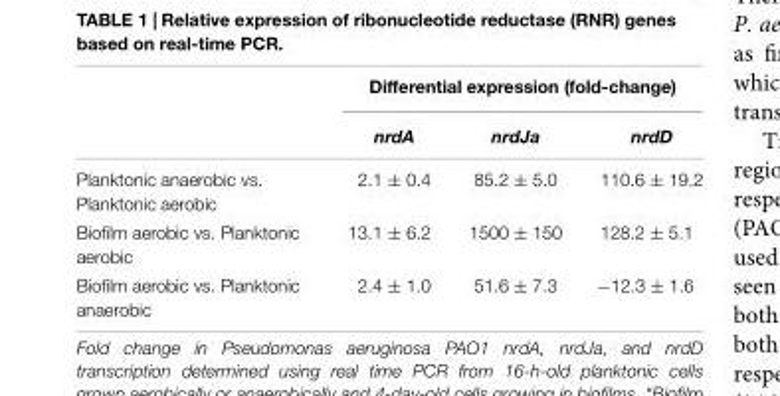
<table><thead><tr><td rowspan="2"></td><td colspan="3">Differential expression (fold-change)</td></tr><tr><td>nrdA</td><td>nrdJa</td><td>nrdD</td></tr></thead><tbody><tr><td>Planktonic anaerobic vs. Planktonic aerobic</td><td>2.1 ± 0.4</td><td>85.2 ± 5.0</td><td>110.6 ± 19.2</td></tr><tr><td>Biofilm aerobic vs. Planktonic aerobic</td><td>13.1 ± 6.2</td><td>1500 ± 150</td><td>128.2 ± 5.1</td></tr><tr><td>Biofilm aerobic vs. Planktonic anaerobic</td><td>2.4 ± 1.0</td><td>51.6 ± 7.3</td><td>−12.3 ± 1.6</td></tr></tbody></table>